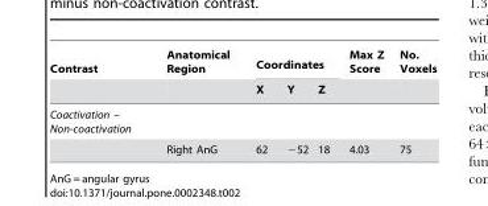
<table><thead><tr><td rowspan="2">Contrast</td><td rowspan="2">Anatomical Region</td><td colspan="3">Coordinates</td><td rowspan="2">Max Z Score</td><td rowspan="2">No. Voxels</td></tr><tr><td>X</td><td>Y</td><td>Z</td></tr></thead><tbody><tr><td colspan="7">Coactivation – Non-coactivation</td></tr><tr><td></td><td>Right AnG</td><td>62</td><td>−52</td><td>18</td><td>4.03</td><td>75</td></tr></tbody></table>